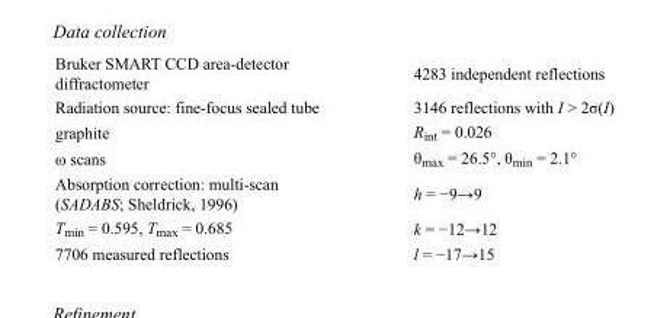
<table><tbody><tr><td>Bruker SMART CCD area-detector diffractometer</td><td>4283 independent reflections</td></tr><tr><td>Radiation source: fine-focus sealed tube</td><td>3146 reflections with I &gt; 2σ(I)</td></tr><tr><td>graphite</td><td>R<sub>int</sub> = 0.026</td></tr><tr><td>ω scans</td><td>θ<sub>max</sub> = 26.5°, θ<sub>min</sub> = 2.1°</td></tr><tr><td>Absorption correction: multi-scan (SADABS; Sheldrick, 1996)</td><td>h = −9→9</td></tr><tr><td>T<sub>min</sub> = 0.595, T<sub>max</sub> = 0.685</td><td>k = −12→12</td></tr><tr><td>7706 measured reflections</td><td>l = −17→15</td></tr></tbody></table>